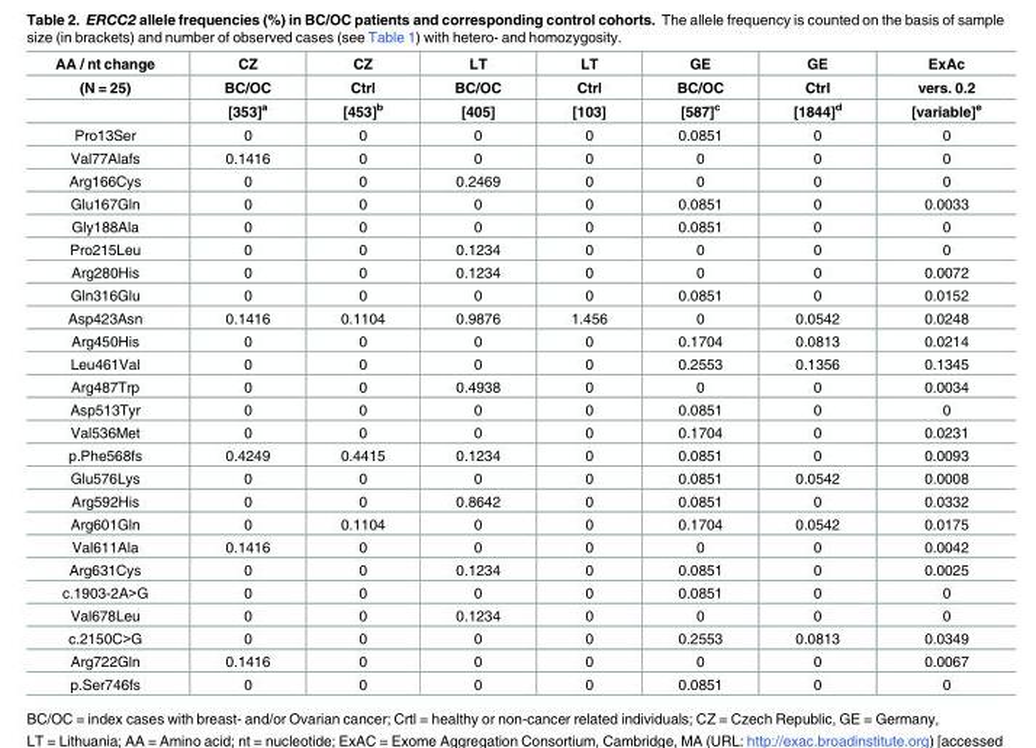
<table><thead><tr><td rowspan="3">AA / nt change (N = 25)</td><td rowspan="3">CZ BC/OC [353]<sup>a</sup></td><td rowspan="3">CZ Ctrl [453]<sup>b</sup></td><td rowspan="3">LT BC/OC [405]</td><td rowspan="3">LT Ctrl [103]</td><td rowspan="3">GE BC/OC [587]<sup>c</sup></td><td rowspan="3">GE Ctrl [1844]<sup>d</sup></td><td rowspan="3">ExAc vers. 0.2 [variable]<sup>e</sup></td></tr><tr></tr><tr></tr></thead><tbody><tr><td>Pro13Ser</td><td>0</td><td>0</td><td>0</td><td>0</td><td>0.0851</td><td>0</td><td>0</td></tr><tr><td>Val77Alafs</td><td>0.1416</td><td>0</td><td>0</td><td>0</td><td>0</td><td>0</td><td>0</td></tr><tr><td>Arg166Cys</td><td>0</td><td>0</td><td>0.2469</td><td>0</td><td>0</td><td>0</td><td>0</td></tr><tr><td>Glu167Gln</td><td>0</td><td>0</td><td>0</td><td>0</td><td>0.0851</td><td>0</td><td>0.0033</td></tr><tr><td>Gly188Ala</td><td>0</td><td>0</td><td>0</td><td>0</td><td>0.0851</td><td>0</td><td>0</td></tr><tr><td>Pro215Leu</td><td>0</td><td>0</td><td>0.1234</td><td>0</td><td>0</td><td>0</td><td>0</td></tr><tr><td>Arg280His</td><td>0</td><td>0</td><td>0.1234</td><td>0</td><td>0</td><td>0</td><td>0.0072</td></tr><tr><td>Gln316Glu</td><td>0</td><td>0</td><td>0</td><td>0</td><td>0.0851</td><td>0</td><td>0.0152</td></tr><tr><td>Asp423Asn</td><td>0.1416</td><td>0.1104</td><td>0.9876</td><td>1.456</td><td>0</td><td>0.0542</td><td>0.0248</td></tr><tr><td>Arg450His</td><td>0</td><td>0</td><td>0</td><td>0</td><td>0.1704</td><td>0.0813</td><td>0.0214</td></tr><tr><td>Leu461Val</td><td>0</td><td>0</td><td>0</td><td>0</td><td>0.2553</td><td>0.1356</td><td>0.1345</td></tr><tr><td>Arg487Trp</td><td>0</td><td>0</td><td>0.4938</td><td>0</td><td>0</td><td>0</td><td>0.0034</td></tr><tr><td>Asp513Tyr</td><td>0</td><td>0</td><td>0</td><td>0</td><td>0.0851</td><td>0</td><td>0</td></tr><tr><td>Val536Met</td><td>0</td><td>0</td><td>0</td><td>0</td><td>0.1704</td><td>0</td><td>0.0231</td></tr><tr><td>p.Phe568fs</td><td>0.4249</td><td>0.4415</td><td>0.1234</td><td>0</td><td>0.0851</td><td>0</td><td>0.0093</td></tr><tr><td>Glu576Lys</td><td>0</td><td>0</td><td>0</td><td>0</td><td>0.0851</td><td>0.0542</td><td>0.0008</td></tr><tr><td>Arg592His</td><td>0</td><td>0</td><td>0.8642</td><td>0</td><td>0.0851</td><td>0</td><td>0.0332</td></tr><tr><td>Arg601Gln</td><td>0</td><td>0.1104</td><td>0</td><td>0</td><td>0.1704</td><td>0.0542</td><td>0.0175</td></tr><tr><td>Val611Ala</td><td>0.1416</td><td>0</td><td>0</td><td>0</td><td>0</td><td>0</td><td>0.0042</td></tr><tr><td>Arg631Cys</td><td>0</td><td>0</td><td>0.1234</td><td>0</td><td>0.0851</td><td>0</td><td>0.0025</td></tr><tr><td>c.1903-2A&gt;G</td><td>0</td><td>0</td><td>0</td><td>0</td><td>0.0851</td><td>0</td><td>0</td></tr><tr><td>Val678Leu</td><td>0</td><td>0</td><td>0.1234</td><td>0</td><td>0</td><td>0</td><td>0</td></tr><tr><td>c.2150C&gt;G</td><td>0</td><td>0</td><td>0</td><td>0</td><td>0.2553</td><td>0.0813</td><td>0.0349</td></tr><tr><td>Arg722Gln</td><td>0.1416</td><td>0</td><td>0</td><td>0</td><td>0</td><td>0</td><td>0.0067</td></tr><tr><td>p.Ser746fs</td><td>0</td><td>0</td><td>0</td><td>0</td><td>0.0851</td><td>0</td><td>0</td></tr></tbody></table>